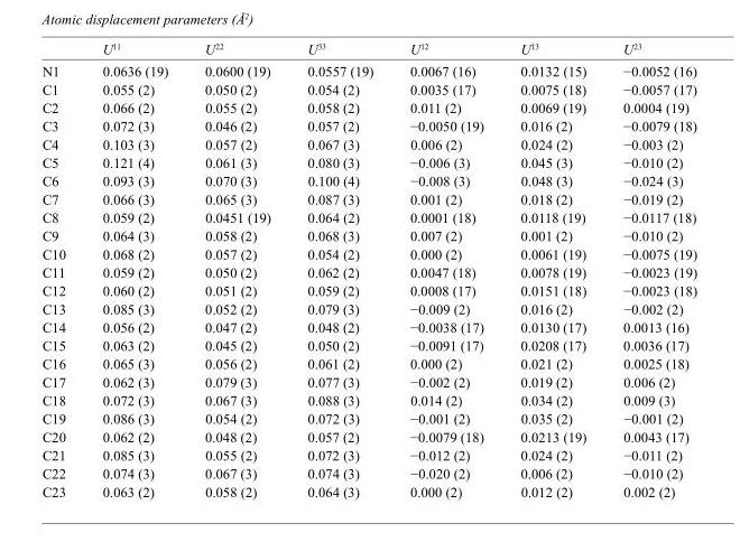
<table><thead><tr><td></td><td>U<sup>11</sup></td><td>U<sup>22</sup></td><td>U<sup>33</sup></td><td>U<sup>12</sup></td><td>U<sup>13</sup></td><td>U<sup>23</sup></td></tr></thead><tbody><tr><td>N1</td><td>0.0636 (19)</td><td>0.0600 (19)</td><td>0.0557 (19)</td><td>0.0067 (16)</td><td>0.0132 (15)</td><td>−0.0052 (16)</td></tr><tr><td>C1</td><td>0.055 (2)</td><td>0.050 (2)</td><td>0.054 (2)</td><td>0.0035 (17)</td><td>0.0075 (18)</td><td>−0.0057 (17)</td></tr><tr><td>C2</td><td>0.066 (2)</td><td>0.055 (2)</td><td>0.058 (2)</td><td>0.011 (2)</td><td>0.0069 (19)</td><td>0.0004 (19)</td></tr><tr><td>C3</td><td>0.072 (3)</td><td>0.046 (2)</td><td>0.057 (2)</td><td>−0.0050 (19)</td><td>0.016 (2)</td><td>−0.0079 (18)</td></tr><tr><td>C4</td><td>0.103 (3)</td><td>0.057 (2)</td><td>0.067 (3)</td><td>0.006 (2)</td><td>0.024 (2)</td><td>−0.003 (2)</td></tr><tr><td>C5</td><td>0.121 (4)</td><td>0.061 (3)</td><td>0.080 (3)</td><td>−0.006 (3)</td><td>0.045 (3)</td><td>−0.010 (2)</td></tr><tr><td>C6</td><td>0.093 (3)</td><td>0.070 (3)</td><td>0.100 (4)</td><td>−0.008 (3)</td><td>0.048 (3)</td><td>−0.024 (3)</td></tr><tr><td>C7</td><td>0.066 (3)</td><td>0.065 (3)</td><td>0.087 (3)</td><td>0.001 (2)</td><td>0.018 (2)</td><td>−0.019 (2)</td></tr><tr><td>C8</td><td>0.059 (2)</td><td>0.0451 (19)</td><td>0.064 (2)</td><td>0.0001 (18)</td><td>0.0118 (19)</td><td>−0.0117 (18)</td></tr><tr><td>C9</td><td>0.064 (3)</td><td>0.058 (2)</td><td>0.068 (3)</td><td>0.007 (2)</td><td>0.001 (2)</td><td>−0.010 (2)</td></tr><tr><td>C10</td><td>0.068 (2)</td><td>0.057 (2)</td><td>0.054 (2)</td><td>0.000 (2)</td><td>0.0061 (19)</td><td>−0.0075 (19)</td></tr><tr><td>C11</td><td>0.059 (2)</td><td>0.050 (2)</td><td>0.062 (2)</td><td>0.0047 (18)</td><td>0.0078 (19)</td><td>−0.0023 (19)</td></tr><tr><td>C12</td><td>0.060 (2)</td><td>0.051 (2)</td><td>0.059 (2)</td><td>0.0008 (17)</td><td>0.0151 (18)</td><td>−0.0023 (18)</td></tr><tr><td>C13</td><td>0.085 (3)</td><td>0.052 (2)</td><td>0.079 (3)</td><td>−0.009 (2)</td><td>0.016 (2)</td><td>−0.002 (2)</td></tr><tr><td>C14</td><td>0.056 (2)</td><td>0.047 (2)</td><td>0.048 (2)</td><td>−0.0038 (17)</td><td>0.0130 (17)</td><td>0.0013 (16)</td></tr><tr><td>C15</td><td>0.063 (2)</td><td>0.045 (2)</td><td>0.050 (2)</td><td>−0.0091 (17)</td><td>0.0208 (17)</td><td>0.0036 (17)</td></tr><tr><td>C16</td><td>0.065 (3)</td><td>0.056 (2)</td><td>0.061 (2)</td><td>0.000 (2)</td><td>0.021 (2)</td><td>0.0025 (18)</td></tr><tr><td>C17</td><td>0.062 (3)</td><td>0.079 (3)</td><td>0.077 (3)</td><td>−0.002 (2)</td><td>0.019 (2)</td><td>0.006 (2)</td></tr><tr><td>C18</td><td>0.072 (3)</td><td>0.067 (3)</td><td>0.088 (3)</td><td>0.014 (2)</td><td>0.034 (2)</td><td>0.009 (3)</td></tr><tr><td>C19</td><td>0.086 (3)</td><td>0.054 (2)</td><td>0.072 (3)</td><td>−0.001 (2)</td><td>0.035 (2)</td><td>−0.001 (2)</td></tr><tr><td>C20</td><td>0.062 (2)</td><td>0.048 (2)</td><td>0.057 (2)</td><td>−0.0079 (18)</td><td>0.0213 (19)</td><td>0.0043 (17)</td></tr><tr><td>C21</td><td>0.085 (3)</td><td>0.055 (2)</td><td>0.072 (3)</td><td>−0.012 (2)</td><td>0.024 (2)</td><td>−0.011 (2)</td></tr><tr><td>C22</td><td>0.074 (3)</td><td>0.067 (3)</td><td>0.074 (3)</td><td>−0.020 (2)</td><td>0.006 (2)</td><td>−0.010 (2)</td></tr><tr><td>C23</td><td>0.063 (2)</td><td>0.058 (2)</td><td>0.064 (3)</td><td>0.000 (2)</td><td>0.012 (2)</td><td>0.002 (2)</td></tr></tbody></table>